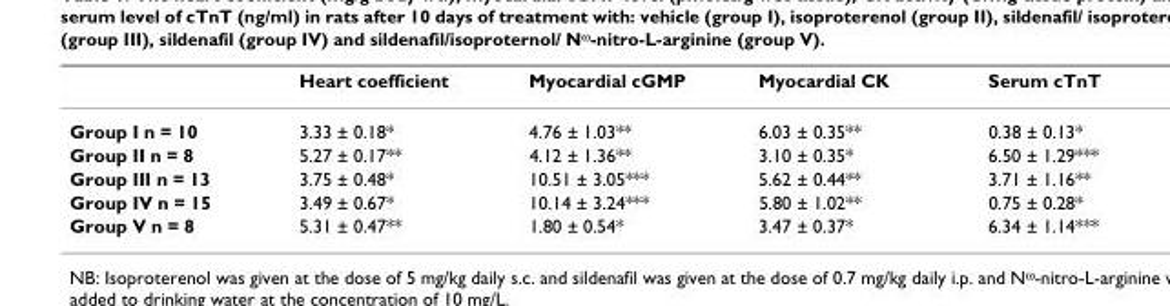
<table><thead><tr><td></td><td>Heart coefficient</td><td>Myocardial cGMP</td><td>Myocardial CK</td><td>Serum cTnT</td></tr></thead><tbody><tr><td>Group I n = 10</td><td>3.33 ± 0.18*</td><td>4.76 ± 1.03**</td><td>6.03 ± 0.35**</td><td>0.38 ± 0.13*</td></tr><tr><td>Group II n = 8</td><td>5.27 ± 0.17**</td><td>4.12 ± 1.36**</td><td>3.10 ± 0.35*</td><td>6.50 ± 1.29***</td></tr><tr><td>Group III n = 13</td><td>3.75 ± 0.48*</td><td>10.51 ± 3.05***</td><td>5.62 ± 0.44**</td><td>3.71 ± 1.16**</td></tr><tr><td>Group IV n = 15</td><td>3.49 ± 0.67*</td><td>10.14 ± 3.24***</td><td>5.80 ± 1.02**</td><td>0.75 ± 0.28*</td></tr><tr><td>Group V n = 8</td><td>5.31 ± 0.47**</td><td>1.80 ± 0.54*</td><td>3.47 ± 0.37*</td><td>6.34 ± 1.14***</td></tr></tbody></table>